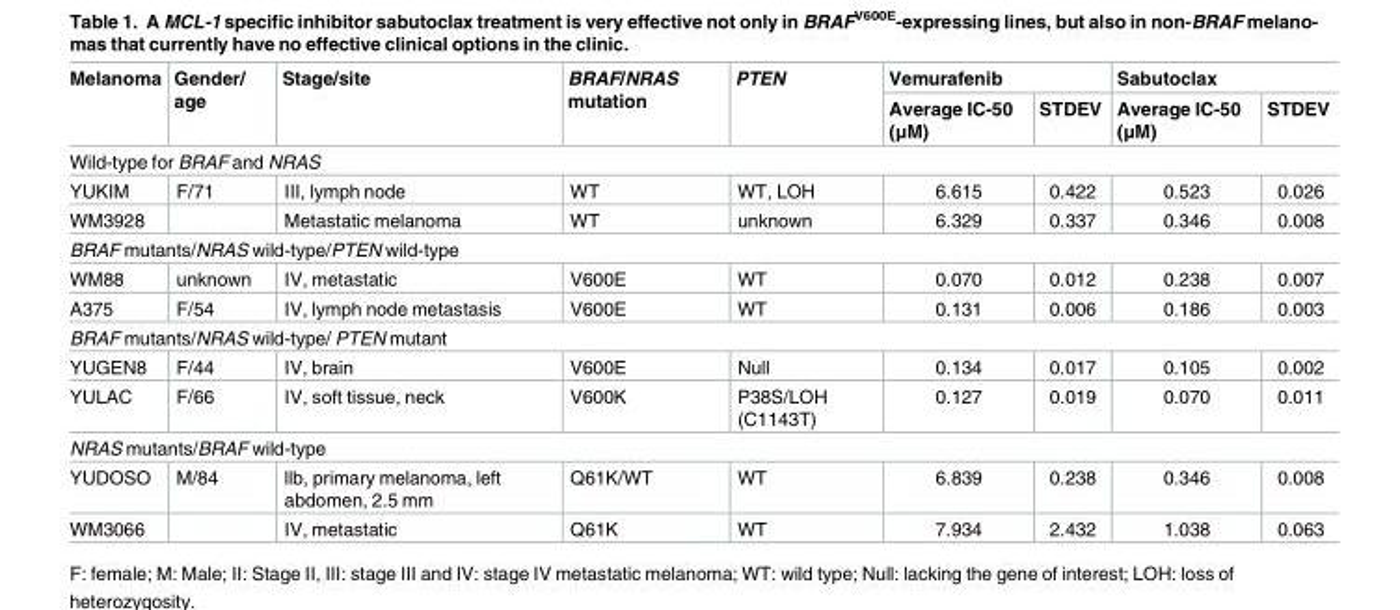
<table><thead><tr><td rowspan="2">Melanoma</td><td rowspan="2">Gender/ age</td><td rowspan="2">Stage/site</td><td rowspan="2">BRAF/NRAS mutation</td><td rowspan="2">PTEN</td><td colspan="2">Vemurafenib</td><td colspan="2">Sabutoclax</td></tr><tr><td>Average IC-50 (μM)</td><td>STDEV</td><td>Average IC-50 (μM)</td><td>STDEV</td></tr></thead><tbody><tr><td colspan="9">Wild-type for BRAF and NRAS</td></tr><tr><td>YUKIM</td><td>F/71</td><td>III, lymph node</td><td>WT</td><td>WT, LOH</td><td>6.615</td><td>0.422</td><td>0.523</td><td>0.026</td></tr><tr><td>WM3928</td><td></td><td>Metastatic melanoma</td><td>WT</td><td>unknown</td><td>6.329</td><td>0.337</td><td>0.346</td><td>0.008</td></tr><tr><td colspan="9">BRAF mutants/NRAS wild-type/PTEN wild-type</td></tr><tr><td>WM88</td><td>unknown</td><td>IV, metastatic</td><td>V600E</td><td>WT</td><td>0.070</td><td>0.012</td><td>0.238</td><td>0.007</td></tr><tr><td>A375</td><td>F/54</td><td>IV, lymph node metastasis</td><td>V600E</td><td>WT</td><td>0.131</td><td>0.006</td><td>0.186</td><td>0.003</td></tr><tr><td colspan="9">BRAF mutants/NRAS wild-type/ PTEN mutant</td></tr><tr><td>YUGEN8</td><td>F/44</td><td>IV, brain</td><td>V600E</td><td>Null</td><td>0.134</td><td>0.017</td><td>0.105</td><td>0.002</td></tr><tr><td>YULAC</td><td>F/66</td><td>IV, soft tissue, neck</td><td>V600K</td><td>P38S/LOH (C1143T)</td><td>0.127</td><td>0.019</td><td>0.070</td><td>0.011</td></tr><tr><td colspan="9">NRAS mutants/BRAF wild-type</td></tr><tr><td>YUDOSO</td><td>M/84</td><td>llb, primary melanoma, left abdomen, 2.5 mm</td><td>Q61K/WT</td><td>WT</td><td>6.839</td><td>0.238</td><td>0.346</td><td>0.008</td></tr><tr><td>WM3066</td><td></td><td>IV, metastatic</td><td>Q61K</td><td>WT</td><td>7.934</td><td>2.432</td><td>1.038</td><td>0.063</td></tr></tbody></table>